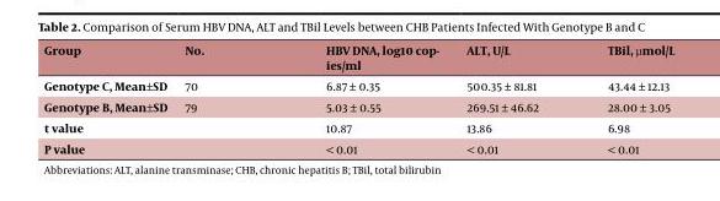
<table><thead><tr><td>Group</td><td>No.</td><td>HBV DNA, log10 cop- ies/ml</td><td>ALT, U/L</td><td>TBil, μmol/L</td></tr></thead><tbody><tr><td>Genotype C, Mean±SD</td><td>70</td><td>6.87 ± 0.35</td><td>500.35 ± 81.81</td><td>43.44 ± 12.13</td></tr><tr><td>Genotype B, Mean±SD</td><td>79</td><td>5.03 ± 0.55</td><td>269.51 ± 46.62</td><td>28.00 ± 3.05</td></tr><tr><td>t value</td><td></td><td>10.87</td><td>13.86</td><td>6.98</td></tr><tr><td>P value</td><td></td><td>&lt; 0.01</td><td>&lt; 0.01</td><td>&lt; 0.01</td></tr></tbody></table>